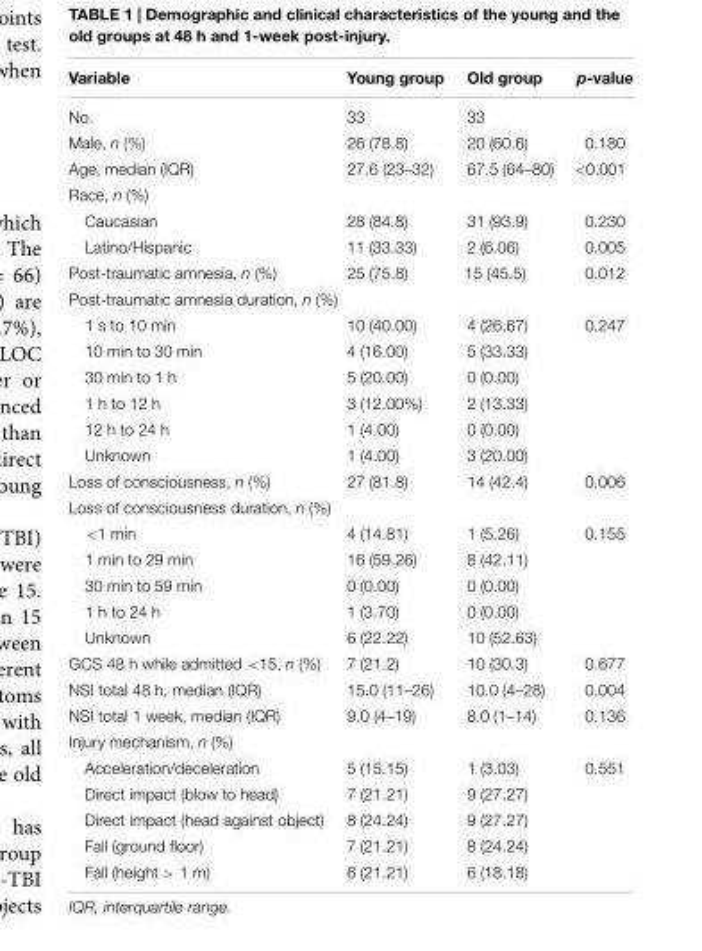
<table><thead><tr><td>Variable</td><td>Young group</td><td>Old group</td><td>p-value</td></tr></thead><tbody><tr><td>No.</td><td>33</td><td>33</td><td></td></tr><tr><td>Male, n (%)</td><td>26 (78.8)</td><td>20 (60.6)</td><td>0.180</td></tr><tr><td>Age, median (IQR)</td><td>27.6 (23–32)</td><td>67.5 (64–80)</td><td>&lt;0.001</td></tr><tr><td colspan="4">Race, n (%)</td></tr><tr><td>Caucasian</td><td>28 (84.8)</td><td>31 (93.9)</td><td>0.230</td></tr><tr><td>Latino/Hispanic</td><td>11 (33.33)</td><td>2 (6.06)</td><td>0.005</td></tr><tr><td>Post-traumatic amnesia, n (%)</td><td>25 (75.8)</td><td>15 (45.5)</td><td>0.012</td></tr><tr><td colspan="4">Post-traumatic amnesia duration, n (%)</td></tr><tr><td>1 s to 10 min</td><td>10 (40.00)</td><td>4 (26.67)</td><td>0.247</td></tr><tr><td>10 min to 30 min</td><td>4 (16.00)</td><td>5 (33.33)</td><td></td></tr><tr><td>30 min to 1 h</td><td>5 (20.00)</td><td>0 (0.00)</td><td></td></tr><tr><td>1 h to 12 h</td><td>3 (12.00%)</td><td>2 (13.33)</td><td></td></tr><tr><td>12 h to 24 h</td><td>1 (4.00)</td><td>0 (0.00)</td><td></td></tr><tr><td>Unknown</td><td>1 (4.00)</td><td>3 (20.00)</td><td></td></tr><tr><td>Loss of consciousness, n (%)</td><td>27 (81.8)</td><td>14 (42.4)</td><td>0.006</td></tr><tr><td colspan="4">Loss of consciousness duration, n (%)</td></tr><tr><td>&lt;1 min</td><td>4 (14.81)</td><td>1 (5.26)</td><td>0.155</td></tr><tr><td>1 min to 29 min</td><td>16 (59.26)</td><td>8 (42.11)</td><td></td></tr><tr><td>30 min to 59 min</td><td>0 (0.00)</td><td>0 (0.00)</td><td></td></tr><tr><td>1 h to 24 h</td><td>1 (3.70)</td><td>0 (0.00)</td><td></td></tr><tr><td>Unknown</td><td>6 (22.22)</td><td>10 (52.63)</td><td></td></tr><tr><td>GCS 48 h while admitted &lt;15, n (%)</td><td>7 (21.2)</td><td>10 (30.3)</td><td>0.677</td></tr><tr><td>NSI total 48 h, median (IQR)</td><td>15.0 (11–26)</td><td>10.0 (4–28)</td><td>0.004</td></tr><tr><td>NSI total 1 week, median (IQR)</td><td>9.0 (4–19)</td><td>8.0 (1–14)</td><td>0.136</td></tr><tr><td colspan="4">Injury mechanism, n (%)</td></tr><tr><td>Acceleration/deceleration</td><td>5 (15.15)</td><td>1 (3.03)</td><td>0.551</td></tr><tr><td>Direct impact (blow to head)</td><td>7 (21.21)</td><td>9 (27.27)</td><td></td></tr><tr><td>Direct impact (head against object)</td><td>8 (24.24)</td><td>9 (27.27)</td><td></td></tr><tr><td>Fall (ground floor)</td><td>7 (21.21)</td><td>8 (24.24)</td><td></td></tr><tr><td>Fall (height &gt; 1 m)</td><td>6 (21.21)</td><td>6 (18.18)</td><td></td></tr></tbody></table>